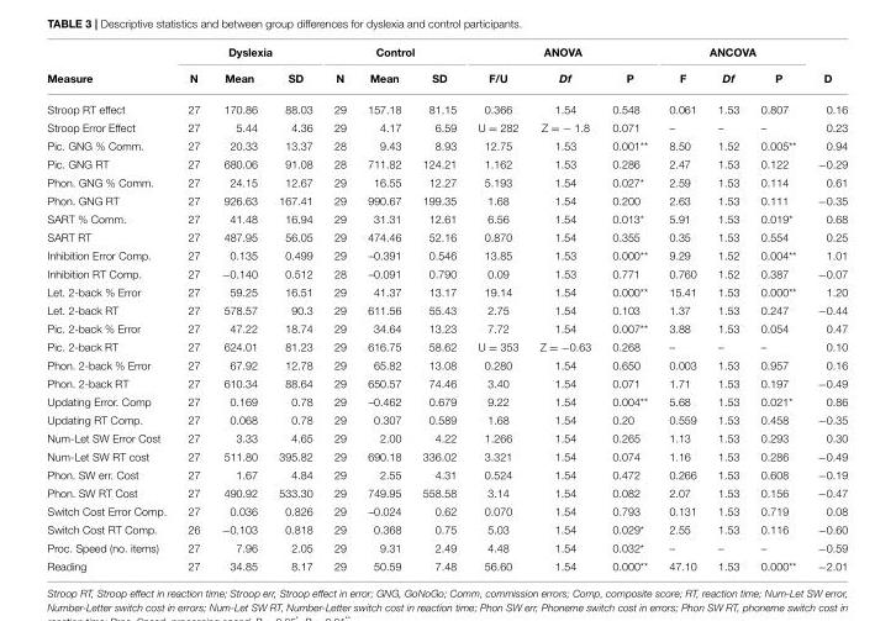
<table><thead><tr><td rowspan="2">Measure</td><td colspan="3">Dyslexia</td><td colspan="3">Control</td><td colspan="3">ANOVA</td><td colspan="3">ANCOVA</td><td rowspan="2">D</td></tr><tr><td>N</td><td>Mean</td><td>SD</td><td>N</td><td>Mean</td><td>SD</td><td>F/U</td><td>Df</td><td>P</td><td>F</td><td>Df</td><td>P</td></tr></thead><tbody><tr><td>Stroop RT effect</td><td>27</td><td>170.86</td><td>88.03</td><td>29</td><td>157.18</td><td>81.15</td><td>0.366</td><td>1.54</td><td>0.548</td><td>0.061</td><td>1.53</td><td>0.807</td><td>0.16</td></tr><tr><td>Stroop Error Effect</td><td>27</td><td>5.44</td><td>4.36</td><td>29</td><td>4.17</td><td>6.59</td><td>U = 282</td><td>Z = − 1.8</td><td>0.071</td><td>–</td><td>–</td><td>–</td><td>0.23</td></tr><tr><td>Pic. GNG % Comm.</td><td>27</td><td>20.33</td><td>13.37</td><td>28</td><td>9.43</td><td>8.93</td><td>12.75</td><td>1.53</td><td>0.001**</td><td>8.50</td><td>1.52</td><td>0.005**</td><td>0.94</td></tr><tr><td>Pic. GNG RT</td><td>27</td><td>680.06</td><td>91.08</td><td>28</td><td>711.82</td><td>124.21</td><td>1.162</td><td>1.53</td><td>0.286</td><td>2.47</td><td>1.53</td><td>0.122</td><td>−0.29</td></tr><tr><td>Phon. GNG % Comm.</td><td>27</td><td>24.15</td><td>12.67</td><td>29</td><td>16.55</td><td>12.27</td><td>5.193</td><td>1.54</td><td>0.027*</td><td>2.59</td><td>1.53</td><td>0.114</td><td>0.61</td></tr><tr><td>Phon. GNG RT</td><td>27</td><td>926.63</td><td>167.41</td><td>29</td><td>990.67</td><td>199.35</td><td>1.68</td><td>1.54</td><td>0.200</td><td>2.63</td><td>1.53</td><td>0.111</td><td>−0.35</td></tr><tr><td>SART % Comm.</td><td>27</td><td>41.48</td><td>16.94</td><td>29</td><td>31.31</td><td>12.61</td><td>6.56</td><td>1.54</td><td>0.013*</td><td>5.91</td><td>1.53</td><td>0.019*</td><td>0.68</td></tr><tr><td>SART RT</td><td>27</td><td>487.95</td><td>56.05</td><td>29</td><td>474.46</td><td>52.16</td><td>0.870</td><td>1.54</td><td>0.355</td><td>0.35</td><td>1.53</td><td>0.554</td><td>0.25</td></tr><tr><td>Inhibition Error Comp.</td><td>27</td><td>0.135</td><td>0.499</td><td>29</td><td>–0.391</td><td>0.546</td><td>13.85</td><td>1.53</td><td>0.000**</td><td>9.29</td><td>1.52</td><td>0.004**</td><td>1.01</td></tr><tr><td>Inhibition RT Comp.</td><td>27</td><td>−0.140</td><td>0.512</td><td>28</td><td>–0.091</td><td>0.790</td><td>0.09</td><td>1.53</td><td>0.771</td><td>0.760</td><td>1.52</td><td>0.387</td><td>−0.07</td></tr><tr><td>Let. 2-back % Error</td><td>27</td><td>59.25</td><td>16.51</td><td>29</td><td>41.37</td><td>13.17</td><td>19.14</td><td>1.54</td><td>0.000**</td><td>15.41</td><td>1.53</td><td>0.000**</td><td>1.20</td></tr><tr><td>Let. 2-back RT</td><td>27</td><td>578.57</td><td>90.3</td><td>29</td><td>611.56</td><td>55.43</td><td>2.75</td><td>1.54</td><td>0.103</td><td>1.37</td><td>1.53</td><td>0.247</td><td>−0.44</td></tr><tr><td>Pic. 2-back % Error</td><td>27</td><td>47.22</td><td>18.74</td><td>29</td><td>34.64</td><td>13.23</td><td>7.72</td><td>1.54</td><td>0.007**</td><td>3.88</td><td>1.53</td><td>0.054</td><td>0.47</td></tr><tr><td>Pic. 2-back RT</td><td>27</td><td>624.01</td><td>81.23</td><td>29</td><td>616.75</td><td>58.62</td><td>U = 353</td><td>Z = −0.63</td><td>0.268</td><td>–</td><td>–</td><td>–</td><td>0.10</td></tr><tr><td>Phon. 2-back % Error</td><td>27</td><td>67.92</td><td>12.78</td><td>29</td><td>65.82</td><td>13.08</td><td>0.280</td><td>1.54</td><td>0.650</td><td>0.003</td><td>1.53</td><td>0.957</td><td>0.16</td></tr><tr><td>Phon. 2-back RT</td><td>27</td><td>610.34</td><td>88.64</td><td>29</td><td>650.57</td><td>74.46</td><td>3.40</td><td>1.54</td><td>0.071</td><td>1.71</td><td>1.53</td><td>0.197</td><td>−0.49</td></tr><tr><td>Updating Error. Comp</td><td>27</td><td>0.169</td><td>0.78</td><td>29</td><td>–0.462</td><td>0.679</td><td>9.22</td><td>1.54</td><td>0.004**</td><td>5.68</td><td>1.53</td><td>0.021*</td><td>0.86</td></tr><tr><td>Updating RT Comp.</td><td>27</td><td>0.068</td><td>0.78</td><td>29</td><td>0.307</td><td>0.589</td><td>1.68</td><td>1.54</td><td>0.20</td><td>0.559</td><td>1.53</td><td>0.458</td><td>−0.35</td></tr><tr><td>Num-Let SW Error Cost</td><td>27</td><td>3.33</td><td>4.65</td><td>29</td><td>2.00</td><td>4.22</td><td>1.266</td><td>1.54</td><td>0.265</td><td>1.13</td><td>1.53</td><td>0.293</td><td>0.30</td></tr><tr><td>Num-Let SW RT cost</td><td>27</td><td>511.80</td><td>395.82</td><td>29</td><td>690.18</td><td>336.02</td><td>3.321</td><td>1.54</td><td>0.074</td><td>1.16</td><td>1.53</td><td>0.286</td><td>−0.49</td></tr><tr><td>Phon. SW err. Cost</td><td>27</td><td>1.67</td><td>4.84</td><td>29</td><td>2.55</td><td>4.31</td><td>0.524</td><td>1.54</td><td>0.472</td><td>0.266</td><td>1.53</td><td>0.608</td><td>−0.19</td></tr><tr><td>Phon. SW RT Cost</td><td>27</td><td>490.92</td><td>533.30</td><td>29</td><td>749.95</td><td>558.58</td><td>3.14</td><td>1.54</td><td>0.082</td><td>2.07</td><td>1.53</td><td>0.156</td><td>−0.47</td></tr><tr><td>Switch Cost Error Comp.</td><td>27</td><td>0.036</td><td>0.826</td><td>29</td><td>–0.024</td><td>0.62</td><td>0.070</td><td>1.54</td><td>0.793</td><td>0.131</td><td>1.53</td><td>0.719</td><td>0.08</td></tr><tr><td>Switch Cost RT Comp.</td><td>26</td><td>−0.103</td><td>0.818</td><td>29</td><td>0.368</td><td>0.75</td><td>5.03</td><td>1.54</td><td>0.029*</td><td>2.55</td><td>1.53</td><td>0.116</td><td>−0.60</td></tr><tr><td>Proc. Speed (no. items)</td><td>27</td><td>7.96</td><td>2.05</td><td>29</td><td>9.31</td><td>2.49</td><td>4.48</td><td>1.54</td><td>0.032*</td><td>–</td><td>–</td><td>–</td><td>−0.59</td></tr><tr><td>Reading</td><td>27</td><td>34.85</td><td>8.17</td><td>29</td><td>50.59</td><td>7.48</td><td>56.60</td><td>1.54</td><td>0.000**</td><td>47.10</td><td>1.53</td><td>0.000**</td><td>−2.01</td></tr></tbody></table>